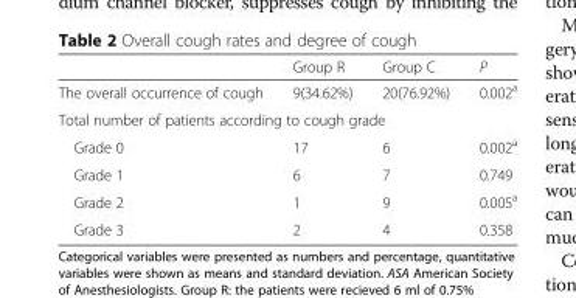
<table><thead><tr><td></td><td>Group R</td><td>Group C</td><td>P</td></tr></thead><tbody><tr><td>The overall occurrence of cough</td><td>9(34.62%)</td><td>20(76.92%)</td><td>0.002<sup>a</sup></td></tr><tr><td colspan="4">Total number of patients according to cough grade</td></tr><tr><td>Grade 0</td><td>17</td><td>6</td><td>0.002<sup>a</sup></td></tr><tr><td>Grade 1</td><td>6</td><td>7</td><td>0.749</td></tr><tr><td>Grade 2</td><td>1</td><td>9</td><td>0.005<sup>a</sup></td></tr><tr><td>Grade 3</td><td>2</td><td>4</td><td>0.358</td></tr></tbody></table>